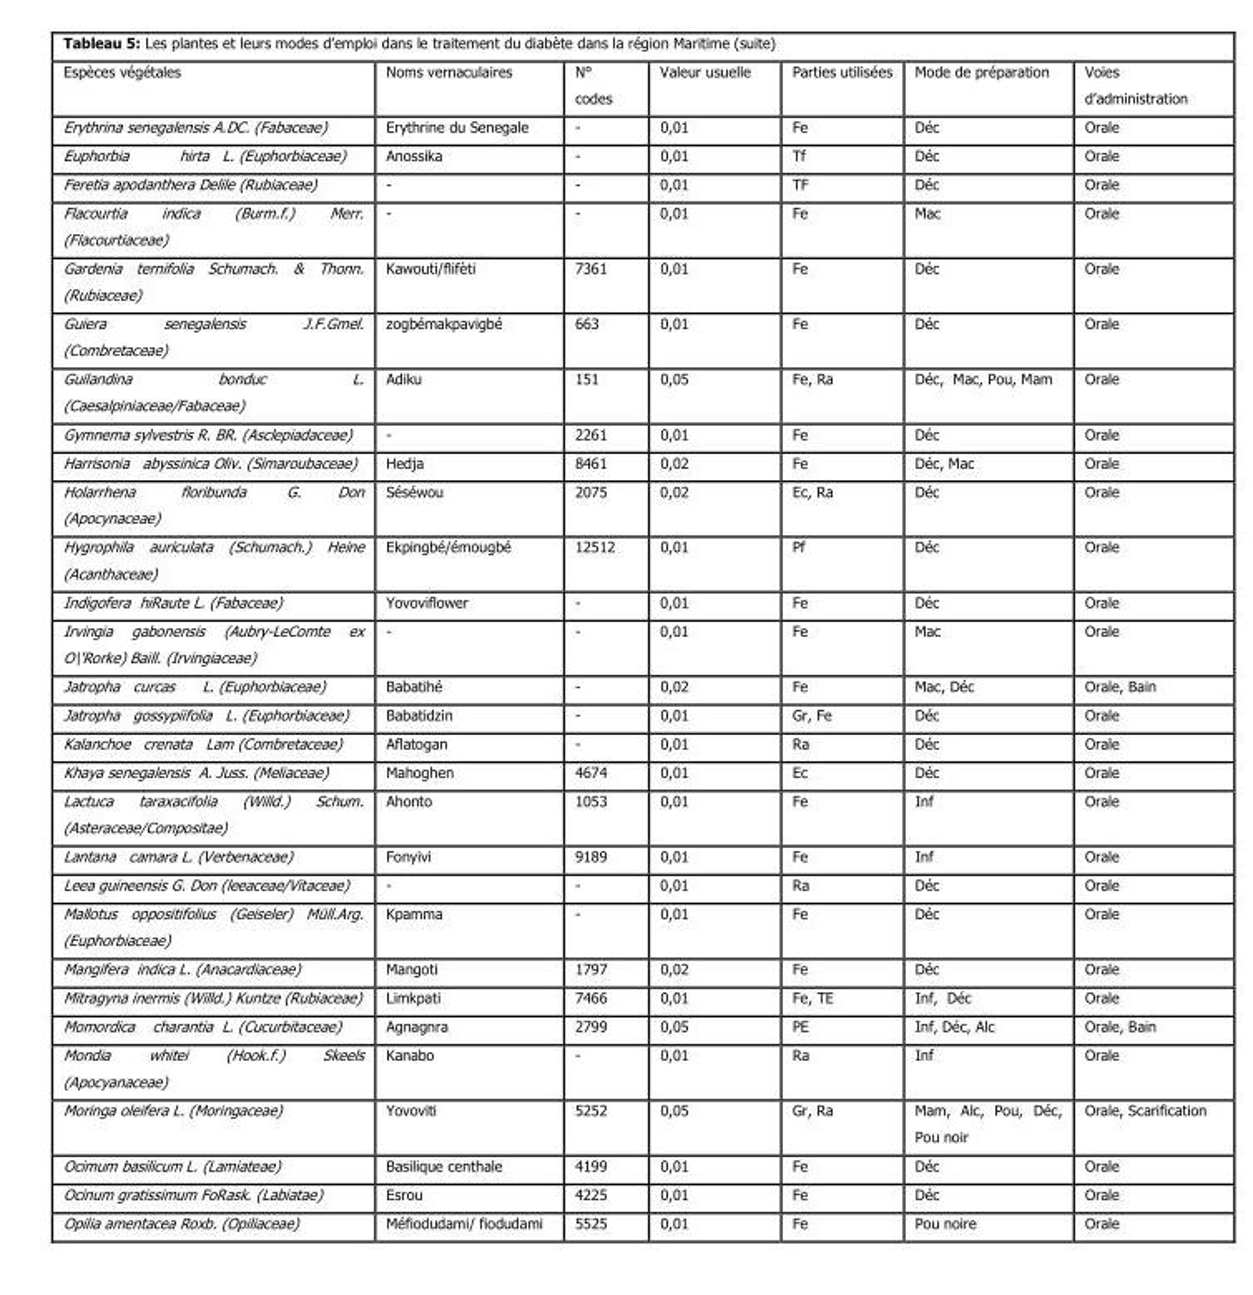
<table><thead><tr><td>Espèces végétales</td><td>Noms vernaculaires</td><td>N° codes</td><td>Valeur usuelle</td><td>Parties utilisées</td><td>Mode de préparation</td><td>Voies d’administration</td></tr></thead><tbody><tr><td>Erythrina senegalensis A.DC. (Fabaceae)</td><td>Erythrine du Senegale</td><td>-</td><td>0,01</td><td>Fe</td><td>Déc</td><td>Orale</td></tr><tr><td>Euphorbia hirta L. (Euphorbiaceae)</td><td>Anossika</td><td>-</td><td>0,01</td><td>Tf</td><td>Déc</td><td>Orale</td></tr><tr><td>Feretia apodanthera Delile (Rubiaceae)</td><td>-</td><td>-</td><td>0,01</td><td>TF</td><td>Déc</td><td>Orale</td></tr><tr><td>Flacourtia indica (Burm.f.) Merr. (Flacourtiaceae)</td><td>-</td><td>-</td><td>0,01</td><td>Fe</td><td>Mac</td><td>Orale</td></tr><tr><td>Gardenia ternifolia Schumach. &amp; Thonn. (Rubiaceae)</td><td>Kawouti/flifèti</td><td>7361</td><td>0,01</td><td>Fe</td><td>Déc</td><td>Orale</td></tr><tr><td>Guiera senegalensis J.F.Gmel. (Combretaceae)</td><td>zogbémakpavigbé</td><td>663</td><td>0,01</td><td>Fe</td><td>Déc</td><td>Orale</td></tr><tr><td>Guilandina bonduc L. (Caesalpiniaceae/Fabaceae)</td><td>Adiku</td><td>151</td><td>0,05</td><td>Fe, Ra</td><td>Déc, Mac, Pou, Mam</td><td>Orale</td></tr><tr><td>Gymnema sylvestris R. BR. (Asclepiadaceae)</td><td>-</td><td>2261</td><td>0,01</td><td>Fe</td><td>Déc</td><td>Orale</td></tr><tr><td>Harrisonia abyssinica Oliv. (Simaroubaceae)</td><td>Hedja</td><td>8461</td><td>0,02</td><td>Fe</td><td>Déc, Mac</td><td>Orale</td></tr><tr><td>Holarrhena floribunda G. Don (Apocynaceae)</td><td>Séséwou</td><td>2075</td><td>0,02</td><td>Ec, Ra</td><td>Déc</td><td>Orale</td></tr><tr><td>Hygrophila auriculata (Schumach.) Heine (Acanthaceae)</td><td>Ekpingbé/émougbé</td><td>12512</td><td>0,01</td><td>Pf</td><td>Déc</td><td>Orale</td></tr><tr><td>Indigofera hiRaute L. (Fabaceae)</td><td>Yovoviflower</td><td>-</td><td>0,01</td><td>Fe</td><td>Déc</td><td>Orale</td></tr><tr><td>Irvingia gabonensis (Aubry-LeComte ex O\&#x27;Rorke) Baill. (Irvingiaceae)</td><td>-</td><td>-</td><td>0,01</td><td>Fe</td><td>Mac</td><td>Orale</td></tr><tr><td>Jatropha curcas L. (Euphorbiaceae)</td><td>Babatihé</td><td>-</td><td>0,02</td><td>Fe</td><td>Mac, Déc</td><td>Orale, Bain</td></tr><tr><td>Jatropha gossypiifolia L. (Euphorbiaceae)</td><td>Babatidzin</td><td>-</td><td>0,01</td><td>Gr, Fe</td><td>Déc</td><td>Orale</td></tr><tr><td>Kalanchoe crenata Lam (Combretaceae)</td><td>Aflatogan</td><td>-</td><td>0,01</td><td>Ra</td><td>Déc</td><td>Orale</td></tr><tr><td>Khaya senegalensis A. Juss. (Meliaceae)</td><td>Mahoghen</td><td>4674</td><td>0,01</td><td>Ec</td><td>Déc</td><td>Orale</td></tr><tr><td>Lactuca taraxacifolia (Willd.) Schum. (Asteraceae/Compositae)</td><td>Ahonto</td><td>1053</td><td>0,01</td><td>Fe</td><td>Inf</td><td>Orale</td></tr><tr><td>Lantana camara L. (Verbenaceae)</td><td>Fonyivi</td><td>9189</td><td>0,01</td><td>Fe</td><td>Inf</td><td>Orale</td></tr><tr><td>Leea guineensis G. Don (leeaceae/Vitaceae)</td><td>-</td><td>-</td><td>0,01</td><td>Ra</td><td>Déc</td><td>Orale</td></tr><tr><td>Mallotus oppositifolius (Geiseler) Müll.Arg. (Euphorbiaceae)</td><td>Kpamma</td><td>-</td><td>0,01</td><td>Fe</td><td>Déc</td><td>Orale</td></tr><tr><td>Mangifera indica L. (Anacardiaceae)</td><td>Mangoti</td><td>1797</td><td>0,02</td><td>Fe</td><td>Déc</td><td>Orale</td></tr><tr><td>Mitragyna inermis (Willd.) Kuntze (Rubiaceae)</td><td>Limkpati</td><td>7466</td><td>0,01</td><td>Fe, TE</td><td>Inf, Déc</td><td>Orale</td></tr><tr><td>Momordica charantia L. (Cucurbitaceae)</td><td>Agnagnra</td><td>2799</td><td>0,05</td><td>PE</td><td>Inf, Déc, Alc</td><td>Orale, Bain</td></tr><tr><td>Mondia whitei (Hook.f.) Skeels (Apocyanaceae)</td><td>Kanabo</td><td>-</td><td>0,01</td><td>Ra</td><td>Inf</td><td>Orale</td></tr><tr><td>Moringa oleifera L. (Moringaceae)</td><td>Yovoviti</td><td>5252</td><td>0,05</td><td>Gr, Ra</td><td>Mam, Alc, Pou, Déc, Pou noir</td><td>Orale, Scarification</td></tr><tr><td>Ocimum basilicum L. (Lamiateae)</td><td>Basilique centhale</td><td>4199</td><td>0,01</td><td>Fe</td><td>Déc</td><td>Orale</td></tr><tr><td>Ocinum gratissimum FoRask. (Labiatae)</td><td>Esrou</td><td>4225</td><td>0,01</td><td>Fe</td><td>Déc</td><td>Orale</td></tr><tr><td>Opilia amentacea Roxb. (Opiliaceae)</td><td>Méfiodudami/ fiodudami</td><td>5525</td><td>0,01</td><td>Fe</td><td>Pou noire</td><td>Orale</td></tr></tbody></table>